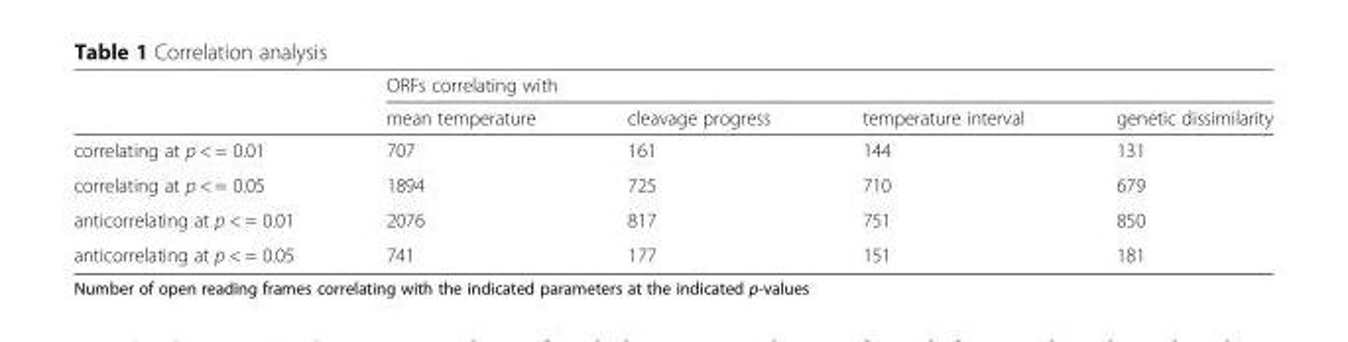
<table><thead><tr><td rowspan="2"></td><td colspan="4">ORFs correlating with</td></tr><tr><td>mean temperature</td><td>cleavage progress</td><td>temperature interval</td><td>genetic dissimilarity</td></tr></thead><tbody><tr><td>correlating at p &lt; = 0.01</td><td>707</td><td>161</td><td>144</td><td>131</td></tr><tr><td>correlating at p &lt; = 0.05</td><td>1894</td><td>725</td><td>710</td><td>679</td></tr><tr><td>anticorrelating at p &lt; = 0.01</td><td>2076</td><td>817</td><td>751</td><td>850</td></tr><tr><td>anticorrelating at p &lt; = 0.05</td><td>741</td><td>177</td><td>151</td><td>181</td></tr></tbody></table>